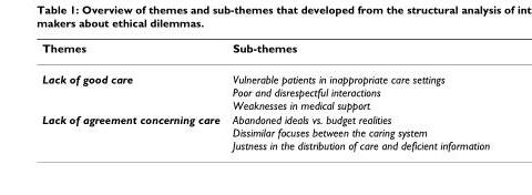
<table><thead><tr><td>Themes</td><td>Sub-themes</td></tr></thead><tbody><tr><td>Lack of good care</td><td>Vulnerable patients in inappropriate care settings Poor and disrespectful interactions Weaknesses in medical support</td></tr><tr><td>Lack of agreement concerning care</td><td>Abandoned ideals vs. budget realities Dissimilar focuses between the caring system Justness in the distribution of care and deficient information</td></tr></tbody></table>